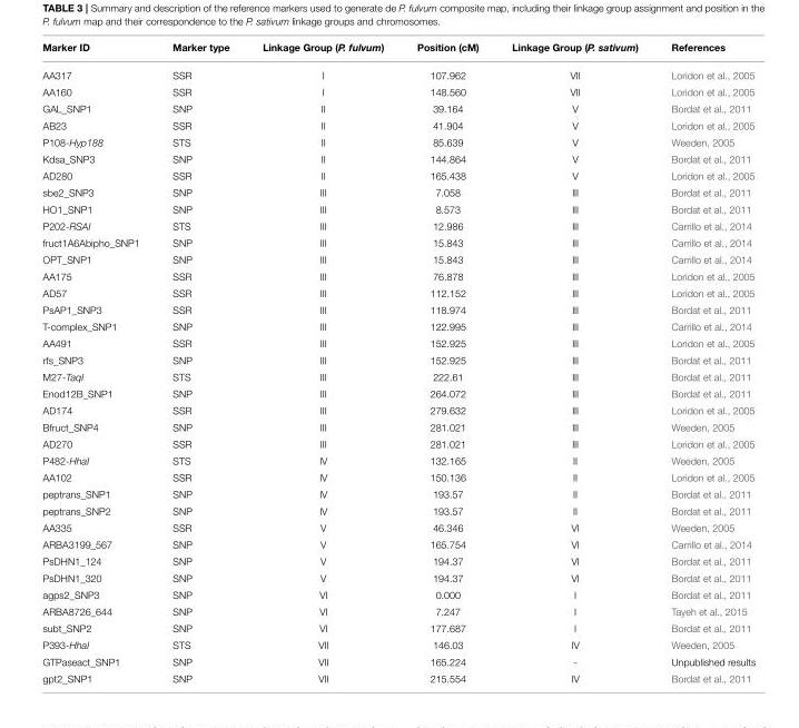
<table><thead><tr><td>Marker ID</td><td>Marker type</td><td>Linkage Group (P. fulvum)</td><td>Position (cM)</td><td>Linkage Group (P. sativum)</td><td>References</td></tr></thead><tbody><tr><td>AA317</td><td>SSR</td><td>I</td><td>107.962</td><td>VII</td><td>Loridon et al., 2005</td></tr><tr><td>AA160</td><td>SSR</td><td>I</td><td>148.560</td><td>VII</td><td>Loridon et al., 2005</td></tr><tr><td>GAL_SNP1</td><td>SNP</td><td>II</td><td>39.164</td><td>V</td><td>Bordat et al., 2011</td></tr><tr><td>AB23</td><td>SSR</td><td>II</td><td>41.904</td><td>V</td><td>Loridon et al., 2005</td></tr><tr><td>P108-Hyp188</td><td>STS</td><td>II</td><td>85.639</td><td>V</td><td>Weeden, 2005</td></tr><tr><td>Kdsa_SNP3</td><td>SNP</td><td>II</td><td>144.864</td><td>V</td><td>Bordat et al., 2011</td></tr><tr><td>AD280</td><td>SSR</td><td>II</td><td>165.438</td><td>V</td><td>Loridon et al., 2005</td></tr><tr><td>sbe2_SNP3</td><td>SNP</td><td>III</td><td>7.058</td><td>III</td><td>Bordat et al., 2011</td></tr><tr><td>HO1_SNP1</td><td>SNP</td><td>III</td><td>8.573</td><td>III</td><td>Bordat et al., 2011</td></tr><tr><td>P202-RSAI</td><td>STS</td><td>III</td><td>12.986</td><td>III</td><td>Carrillo et al., 2014</td></tr><tr><td>fruct1A6Abipho_SNP1</td><td>SNP</td><td>III</td><td>15.843</td><td>III</td><td>Carrillo et al., 2014</td></tr><tr><td>OPT_SNP1</td><td>SNP</td><td>III</td><td>15.843</td><td>III</td><td>Carrillo et al., 2014</td></tr><tr><td>AA175</td><td>SSR</td><td>III</td><td>76.878</td><td>III</td><td>Loridon et al., 2005</td></tr><tr><td>AD57</td><td>SSR</td><td>III</td><td>112.152</td><td>III</td><td>Loridon et al., 2005</td></tr><tr><td>PsAP1_SNP3</td><td>SSR</td><td>III</td><td>118.974</td><td>III</td><td>Bordat et al., 2011</td></tr><tr><td>T-complex_SNP1</td><td>SNP</td><td>III</td><td>122.995</td><td>III</td><td>Carrillo et al., 2014</td></tr><tr><td>AA491</td><td>SSR</td><td>III</td><td>152.925</td><td>III</td><td>Loridon et al., 2005</td></tr><tr><td>rfs_SNP3</td><td>SNP</td><td>III</td><td>152.925</td><td>III</td><td>Bordat et al., 2011</td></tr><tr><td>M27-TaqI</td><td>STS</td><td>III</td><td>222.61</td><td>III</td><td>Bordat et al., 2011</td></tr><tr><td>Enod12B_SNP1</td><td>SNP</td><td>III</td><td>264.072</td><td>III</td><td>Bordat et al., 2011</td></tr><tr><td>AD174</td><td>SSR</td><td>III</td><td>279.632</td><td>III</td><td>Loridon et al., 2005</td></tr><tr><td>Bfruct_SNP4</td><td>SNP</td><td>III</td><td>281.021</td><td>III</td><td>Weeden, 2005</td></tr><tr><td>AD270</td><td>SSR</td><td>III</td><td>281.021</td><td>III</td><td>Loridon et al., 2005</td></tr><tr><td>P482-HhaI</td><td>STS</td><td>IV</td><td>132.165</td><td>II</td><td>Weeden, 2005</td></tr><tr><td>AA102</td><td>SSR</td><td>IV</td><td>150.136</td><td>II</td><td>Loridon et al., 2005</td></tr><tr><td>peptrans_SNP1</td><td>SNP</td><td>IV</td><td>193.57</td><td>II</td><td>Bordat et al., 2011</td></tr><tr><td>peptrans_SNP2</td><td>SNP</td><td>IV</td><td>193.57</td><td>II</td><td>Bordat et al., 2011</td></tr><tr><td>AA335</td><td>SSR</td><td>V</td><td>46.346</td><td>VI</td><td>Weeden, 2005</td></tr><tr><td>ARBA3199_567</td><td>SNP</td><td>V</td><td>165.754</td><td>VI</td><td>Carrillo et al., 2014</td></tr><tr><td>PsDHN1_124</td><td>SNP</td><td>V</td><td>194.37</td><td>VI</td><td>Bordat et al., 2011</td></tr><tr><td>PsDHN1_320</td><td>SNP</td><td>V</td><td>194.37</td><td>VI</td><td>Bordat et al., 2011</td></tr><tr><td>agps2_SNP3</td><td>SNP</td><td>VI</td><td>0.000</td><td>I</td><td>Bordat et al., 2011</td></tr><tr><td>ARBA8726_644</td><td>SNP</td><td>VI</td><td>7.247</td><td>I</td><td>Tayeh et al., 2015</td></tr><tr><td>subt_SNP2</td><td>SNP</td><td>VI</td><td>177.687</td><td>I</td><td>Bordat et al., 2011</td></tr><tr><td>P393-HhaI</td><td>STS</td><td>VII</td><td>146.03</td><td>IV</td><td>Weeden, 2005</td></tr><tr><td>GTPaseact_SNP1</td><td>SNP</td><td>VII</td><td>165.224</td><td>-</td><td>Unpublished results</td></tr><tr><td>gpt2_SNP1</td><td>SNP</td><td>VII</td><td>215.554</td><td>IV</td><td>Bordat et al., 2011</td></tr></tbody></table>